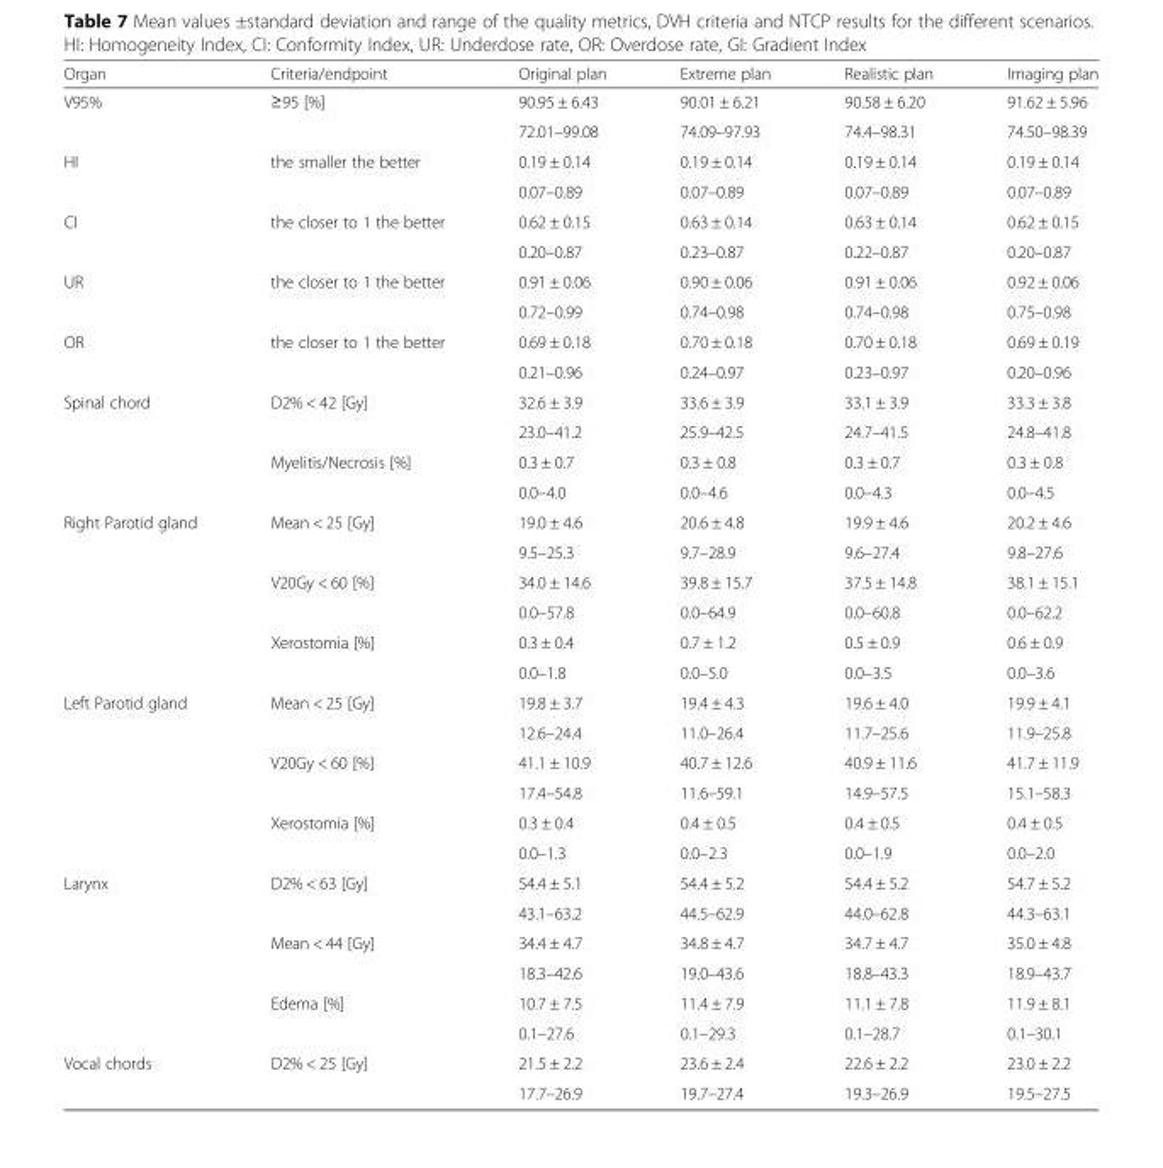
<table><thead><tr><td>Organ</td><td>Criteria/endpoint</td><td>Original plan</td><td>Extreme plan</td><td>Realistic plan</td><td>Imaging plan</td></tr></thead><tbody><tr><td rowspan="2">V95%</td><td rowspan="2">≥95 [%]</td><td>90.95 ± 6.43</td><td>90.01 ± 6.21</td><td>90.58 ± 6.20</td><td>91.62 ± 5.96</td></tr><tr><td>72.01–99.08</td><td>74.09–97.93</td><td>74.4–98.31</td><td>74.50–98.39</td></tr><tr><td rowspan="2">HI</td><td rowspan="2">the smaller the better</td><td>0.19 ± 0.14</td><td>0.19 ± 0.14</td><td>0.19 ± 0.14</td><td>0.19 ± 0.14</td></tr><tr><td>0.07–0.89</td><td>0.07–0.89</td><td>0.07–0.89</td><td>0.07–0.89</td></tr><tr><td rowspan="2">CI</td><td rowspan="2">the closer to 1 the better</td><td>0.62 ± 0.15</td><td>0.63 ± 0.14</td><td>0.63 ± 0.14</td><td>0.62 ± 0.15</td></tr><tr><td>0.20–0.87</td><td>0.23–0.87</td><td>0.22–0.87</td><td>0.20–0.87</td></tr><tr><td rowspan="2">UR</td><td rowspan="2">the closer to 1 the better</td><td>0.91 ± 0.06</td><td>0.90 ± 0.06</td><td>0.91 ± 0.06</td><td>0.92 ± 0.06</td></tr><tr><td>0.72–0.99</td><td>0.74–0.98</td><td>0.74–0.98</td><td>0.75–0.98</td></tr><tr><td rowspan="2">OR</td><td rowspan="2">the closer to 1 the better</td><td>0.69 ± 0.18</td><td>0.70 ± 0.18</td><td>0.70 ± 0.18</td><td>0.69 ± 0.19</td></tr><tr><td>0.21–0.96</td><td>0.24–0.97</td><td>0.23–0.97</td><td>0.20–0.96</td></tr><tr><td rowspan="4">Spinal chord</td><td rowspan="2">D2% &lt; 42 [Gy]</td><td>32.6 ± 3.9</td><td>33.6 ± 3.9</td><td>33.1 ± 3.9</td><td>33.3 ± 3.8</td></tr><tr><td>23.0–41.2</td><td>25.9–42.5</td><td>24.7–41.5</td><td>24.8–41.8</td></tr><tr><td rowspan="2">Myelitis/Necrosis [%]</td><td>0.3 ± 0.7</td><td>0.3 ± 0.8</td><td>0.3 ± 0.7</td><td>0.3 ± 0.8</td></tr><tr><td>0.0–4.0</td><td>0.0–4.6</td><td>0.0–4.3</td><td>0.0–4.5</td></tr><tr><td rowspan="6">Right Parotid gland</td><td rowspan="2">Mean &lt; 25 [Gy]</td><td>19.0 ± 4.6</td><td>20.6 ± 4.8</td><td>19.9 ± 4.6</td><td>20.2 ± 4.6</td></tr><tr><td>9.5–25.3</td><td>9.7–28.9</td><td>9.6–27.4</td><td>9.8–27.6</td></tr><tr><td rowspan="2">V20Gy &lt; 60 [%]</td><td>34.0 ± 14.6</td><td>39.8 ± 15.7</td><td>37.5 ± 14.8</td><td>38.1 ± 15.1</td></tr><tr><td>0.0–57.8</td><td>0.0–64.9</td><td>0.0–60.8</td><td>0.0–62.2</td></tr><tr><td rowspan="2">Xerostomia [%]</td><td>0.3 ± 0.4</td><td>0.7 ± 1.2</td><td>0.5 ± 0.9</td><td>0.6 ± 0.9</td></tr><tr><td>0.0–1.8</td><td>0.0–5.0</td><td>0.0–3.5</td><td>0.0–3.6</td></tr><tr><td rowspan="6">Left Parotid gland</td><td rowspan="2">Mean &lt; 25 [Gy]</td><td>19.8 ± 3.7</td><td>19.4 ± 4.3</td><td>19.6 ± 4.0</td><td>19.9 ± 4.1</td></tr><tr><td>12.6–24.4</td><td>11.0–26.4</td><td>11.7–25.6</td><td>11.9–25.8</td></tr><tr><td rowspan="2">V20Gy &lt; 60 [%]</td><td>41.1 ± 10.9</td><td>40.7 ± 12.6</td><td>40.9 ± 11.6</td><td>41.7 ± 11.9</td></tr><tr><td>17.4–54.8</td><td>11.6–59.1</td><td>14.9–57.5</td><td>15.1–58.3</td></tr><tr><td rowspan="2">Xerostomia [%]</td><td>0.3 ± 0.4</td><td>0.4 ± 0.5</td><td>0.4 ± 0.5</td><td>0.4 ± 0.5</td></tr><tr><td>0.0–1.3</td><td>0.0–2.3</td><td>0.0–1.9</td><td>0.0–2.0</td></tr><tr><td rowspan="6">Larynx</td><td rowspan="2">D2% &lt; 63 [Gy]</td><td>54.4 ± 5.1</td><td>54.4 ± 5.2</td><td>54.4 ± 5.2</td><td>54.7 ± 5.2</td></tr><tr><td>43.1–63.2</td><td>44.5–62.9</td><td>44.0–62.8</td><td>44.3–63.1</td></tr><tr><td rowspan="2">Mean &lt; 44 [Gy]</td><td>34.4 ± 4.7</td><td>34.8 ± 4.7</td><td>34.7 ± 4.7</td><td>35.0 ± 4.8</td></tr><tr><td>18.3–42.6</td><td>19.0–43.6</td><td>18.8–43.3</td><td>18.9–43.7</td></tr><tr><td rowspan="2">Edema [%]</td><td>10.7 ± 7.5</td><td>11.4 ± 7.9</td><td>11.1 ± 7.8</td><td>11.9 ± 8.1</td></tr><tr><td>0.1–27.6</td><td>0.1–29.3</td><td>0.1–28.7</td><td>0.1–30.1</td></tr><tr><td rowspan="2">Vocal chords</td><td rowspan="2">D2% &lt; 25 [Gy]</td><td>21.5 ± 2.2</td><td>23.6 ± 2.4</td><td>22.6 ± 2.2</td><td>23.0 ± 2.2</td></tr><tr><td>17.7–26.9</td><td>19.7–27.4</td><td>19.3–26.9</td><td>19.5–27.5</td></tr></tbody></table>